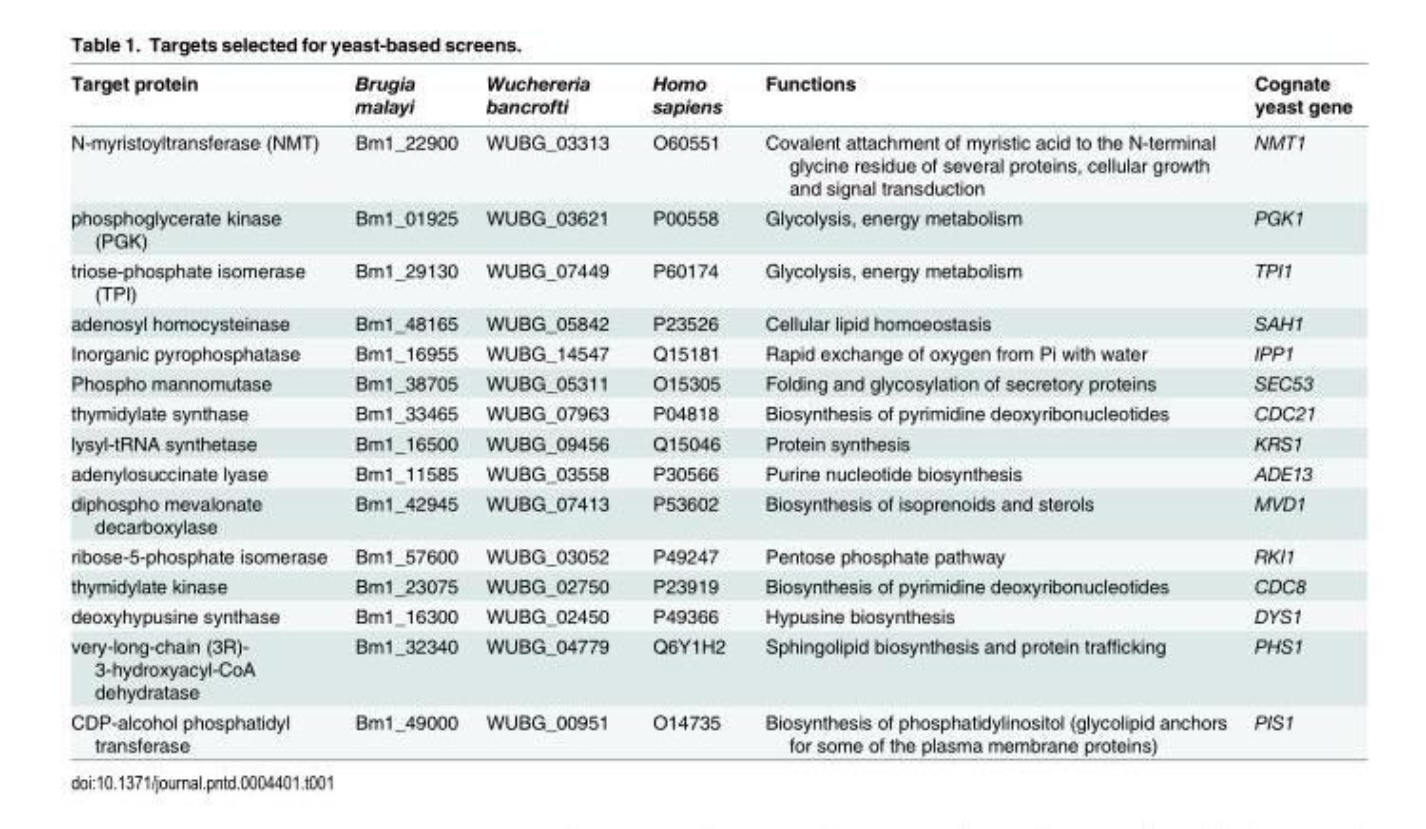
<table><thead><tr><td>Target protein</td><td>Brugia malayi</td><td>Wuchereria bancrofti</td><td>Homo sapiens</td><td>Functions</td><td>Cognate yeast gene</td></tr></thead><tbody><tr><td>N-myristoyltransferase (NMT)</td><td>Bm1_22900</td><td>WUBG_03313</td><td>O60551</td><td>Covalent attachment of myristic acid to the N-terminal glycine residue of several proteins, cellular growth and signal transduction</td><td>NMT1</td></tr><tr><td>phosphoglycerate kinase (PGK)</td><td>Bm1_01925</td><td>WUBG_03621</td><td>P00558</td><td>Glycolysis, energy metabolism</td><td>PGK1</td></tr><tr><td>triose-phosphate isomerase (TPI)</td><td>Bm1_29130</td><td>WUBG_07449</td><td>P60174</td><td>Glycolysis, energy metabolism</td><td>TPI1</td></tr><tr><td>adenosyl homocysteinase</td><td>Bm1_48165</td><td>WUBG_05842</td><td>P23526</td><td>Cellular lipid homoeostasis</td><td>SAH1</td></tr><tr><td>Inorganic pyrophosphatase</td><td>Bm1_16955</td><td>WUBG_14547</td><td>Q15181</td><td>Rapid exchange of oxygen from Pi with water</td><td>IPP1</td></tr><tr><td>Phospho mannomutase</td><td>Bm1_38705</td><td>WUBG_05311</td><td>O15305</td><td>Folding and glycosylation of secretory proteins</td><td>SEC53</td></tr><tr><td>thymidylate synthase</td><td>Bm1_33465</td><td>WUBG_07963</td><td>P04818</td><td>Biosynthesis of pyrimidine deoxyribonucleotides</td><td>CDC21</td></tr><tr><td>lysyl-tRNA synthetase</td><td>Bm1_16500</td><td>WUBG_09456</td><td>Q15046</td><td>Protein synthesis</td><td>KRS1</td></tr><tr><td>adenylosuccinate lyase</td><td>Bm1_11585</td><td>WUBG_03558</td><td>P30566</td><td>Purine nucleotide biosynthesis</td><td>ADE13</td></tr><tr><td>diphospho mevalonate decarboxylase</td><td>Bm1_42945</td><td>WUBG_07413</td><td>P53602</td><td>Biosynthesis of isoprenoids and sterols</td><td>MVD1</td></tr><tr><td>ribose-5-phosphate isomerase</td><td>Bm1_57600</td><td>WUBG_03052</td><td>P49247</td><td>Pentose phosphate pathway</td><td>RKI1</td></tr><tr><td>thymidylate kinase</td><td>Bm1_23075</td><td>WUBG_02750</td><td>P23919</td><td>Biosynthesis of pyrimidine deoxyribonucleotides</td><td>CDC8</td></tr><tr><td>deoxyhypusine synthase</td><td>Bm1_16300</td><td>WUBG_02450</td><td>P49366</td><td>Hypusine biosynthesis</td><td>DYS1</td></tr><tr><td>very-long-chain (3R)- 3-hydroxyacyl-CoA dehydratase</td><td>Bm1_32340</td><td>WUBG_04779</td><td>Q6Y1H2</td><td>Sphingolipid biosynthesis and protein trafficking</td><td>PHS1</td></tr><tr><td>CDP-alcohol phosphatidyl transferase</td><td>Bm1_49000</td><td>WUBG_00951</td><td>O14735</td><td>Biosynthesis of phosphatidylinositol (glycolipid anchors for some of the plasma membrane proteins)</td><td>PIS1</td></tr></tbody></table>